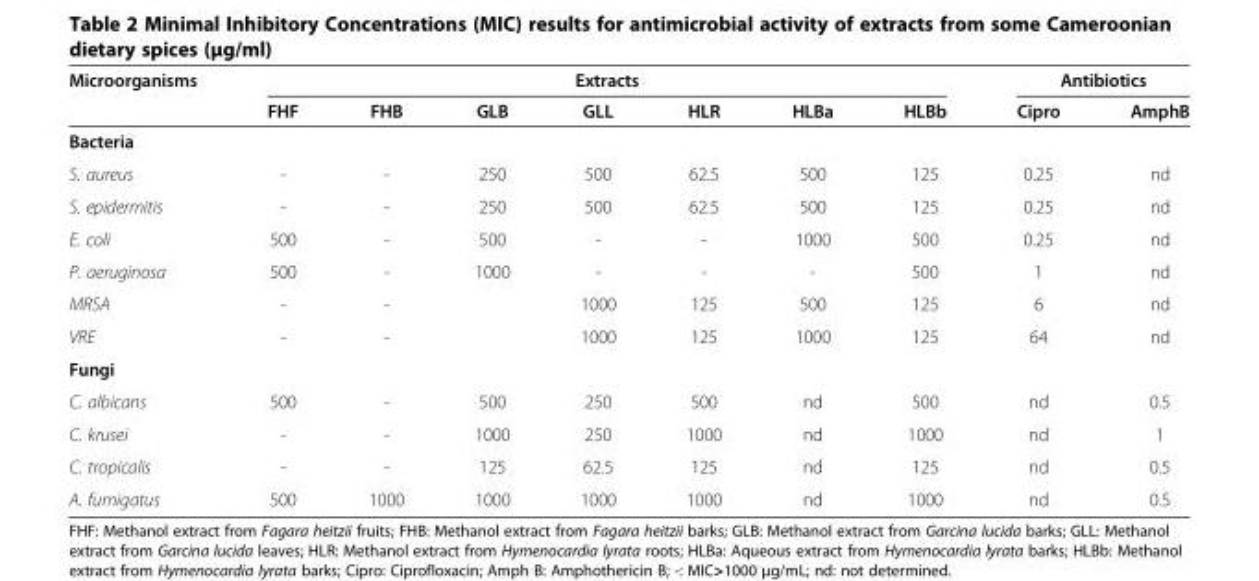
<table><thead><tr><td rowspan="2">Microorganisms</td><td colspan="7">Extracts</td><td colspan="2">Antibiotics</td></tr><tr><td>FHF</td><td>FHB</td><td>GLB</td><td>GLL</td><td>HLR</td><td>HLBa</td><td>HLBb</td><td>Cipro</td><td>AmphB</td></tr></thead><tbody><tr><td colspan="10">Bacteria</td></tr><tr><td>S. aureus</td><td>-</td><td>-</td><td>250</td><td>500</td><td>62.5</td><td>500</td><td>125</td><td>0.25</td><td>nd</td></tr><tr><td>S. epidermitis</td><td>-</td><td>-</td><td>250</td><td>500</td><td>62.5</td><td>500</td><td>125</td><td>0.25</td><td>nd</td></tr><tr><td>E. coli</td><td>500</td><td>-</td><td>500</td><td>-</td><td>-</td><td>1000</td><td>500</td><td>0.25</td><td>nd</td></tr><tr><td>P. aeruginosa</td><td>500</td><td>-</td><td>1000</td><td>-</td><td>-</td><td>-</td><td>500</td><td>1</td><td>nd</td></tr><tr><td>MRSA</td><td>-</td><td>-</td><td></td><td>1000</td><td>125</td><td>500</td><td>125</td><td>6</td><td>nd</td></tr><tr><td>VRE</td><td>-</td><td>-</td><td></td><td>1000</td><td>125</td><td>1000</td><td>125</td><td>64</td><td>nd</td></tr><tr><td colspan="10">Fungi</td></tr><tr><td>C. albicans</td><td>500</td><td>-</td><td>500</td><td>250</td><td>500</td><td>nd</td><td>500</td><td>nd</td><td>0.5</td></tr><tr><td>C. krusei</td><td>-</td><td>-</td><td>1000</td><td>250</td><td>1000</td><td>nd</td><td>1000</td><td>nd</td><td>1</td></tr><tr><td>C. tropicalis</td><td>-</td><td>-</td><td>125</td><td>62.5</td><td>125</td><td>nd</td><td>125</td><td>nd</td><td>0.5</td></tr><tr><td>A. fumigatus</td><td>500</td><td>1000</td><td>1000</td><td>1000</td><td>1000</td><td>nd</td><td>1000</td><td>nd</td><td>0.5</td></tr></tbody></table>